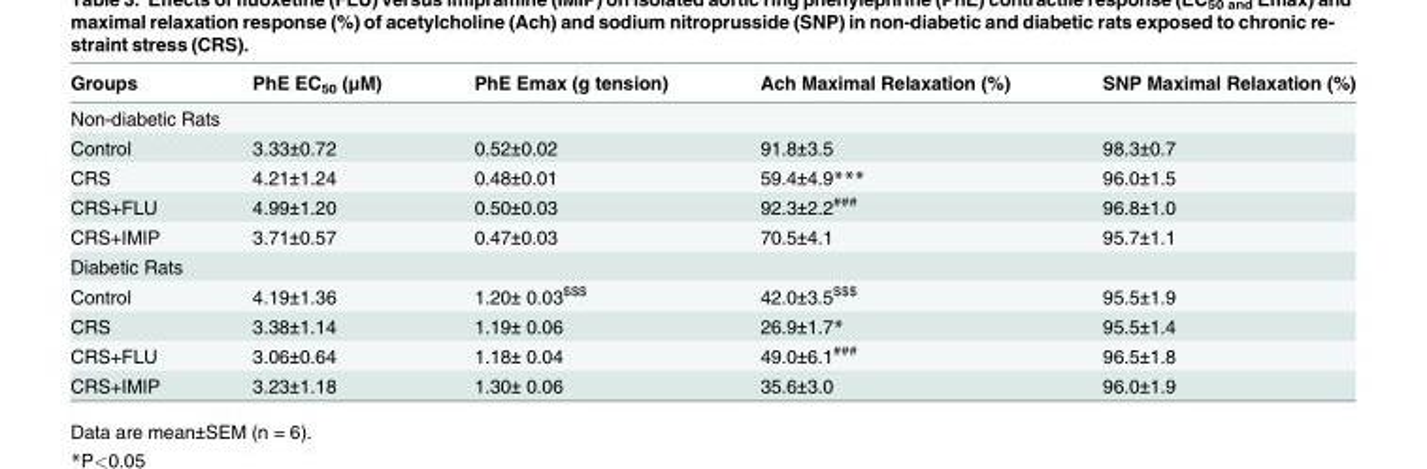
<table><thead><tr><td>Groups</td><td>PhE EC<sub>50</sub> (μM)</td><td>PhE Emax (g tension)</td><td>Ach Maximal Relaxation (%)</td><td>SNP Maximal Relaxation (%)</td></tr></thead><tbody><tr><td colspan="5">Non-diabetic Rats</td></tr><tr><td>Control</td><td>3.33±0.72</td><td>0.52±0.02</td><td>91.8±3.5</td><td>98.3±0.7</td></tr><tr><td>CRS</td><td>4.21±1.24</td><td>0.48±0.01</td><td>59.4±4.9***</td><td>96.0±1.5</td></tr><tr><td>CRS+FLU</td><td>4.99±1.20</td><td>0.50±0.03</td><td>92.3±2.2<sup>###</sup></td><td>96.8±1.0</td></tr><tr><td>CRS+IMIP</td><td>3.71±0.57</td><td>0.47±0.03</td><td>70.5±4.1</td><td>95.7±1.1</td></tr><tr><td colspan="5">Diabetic Rats</td></tr><tr><td>Control</td><td>4.19±1.36</td><td>1.20± 0.03<sup>$$$</sup></td><td>42.0±3.5<sup>$$$</sup></td><td>95.5±1.9</td></tr><tr><td>CRS</td><td>3.38±1.14</td><td>1.19± 0.06</td><td>26.9±1.7*</td><td>95.5±1.4</td></tr><tr><td>CRS+FLU</td><td>3.06±0.64</td><td>1.18± 0.04</td><td>49.0±6.1<sup>###</sup></td><td>96.5±1.8</td></tr><tr><td>CRS+IMIP</td><td>3.23±1.18</td><td>1.30± 0.06</td><td>35.6±3.0</td><td>96.0±1.9</td></tr></tbody></table>